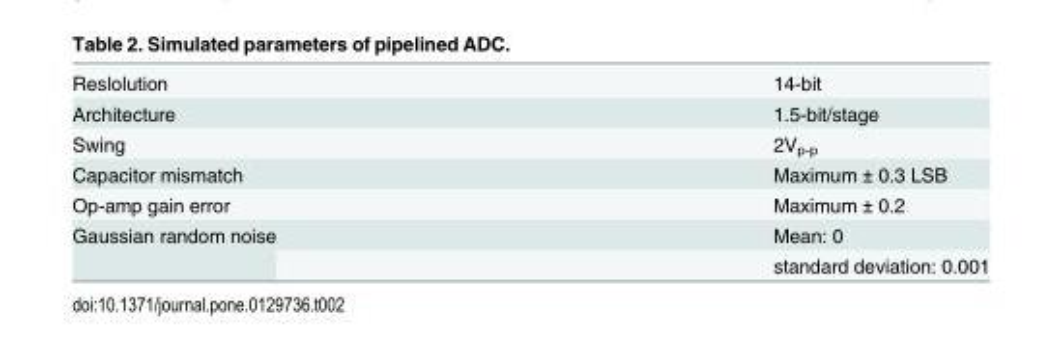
<table><tbody><tr><td>Reslolution</td><td>14-bit</td></tr><tr><td>Architecture</td><td>1.5-bit/stage</td></tr><tr><td>Swing</td><td>2V<sub>p-p</sub></td></tr><tr><td>Capacitor mismatch</td><td>Maximum ± 0.3 LSB</td></tr><tr><td>Op-amp gain error</td><td>Maximum ± 0.2</td></tr><tr><td rowspan="2">Gaussian random noise</td><td>Mean: 0</td></tr><tr><td>standard deviation: 0.001</td></tr></tbody></table>